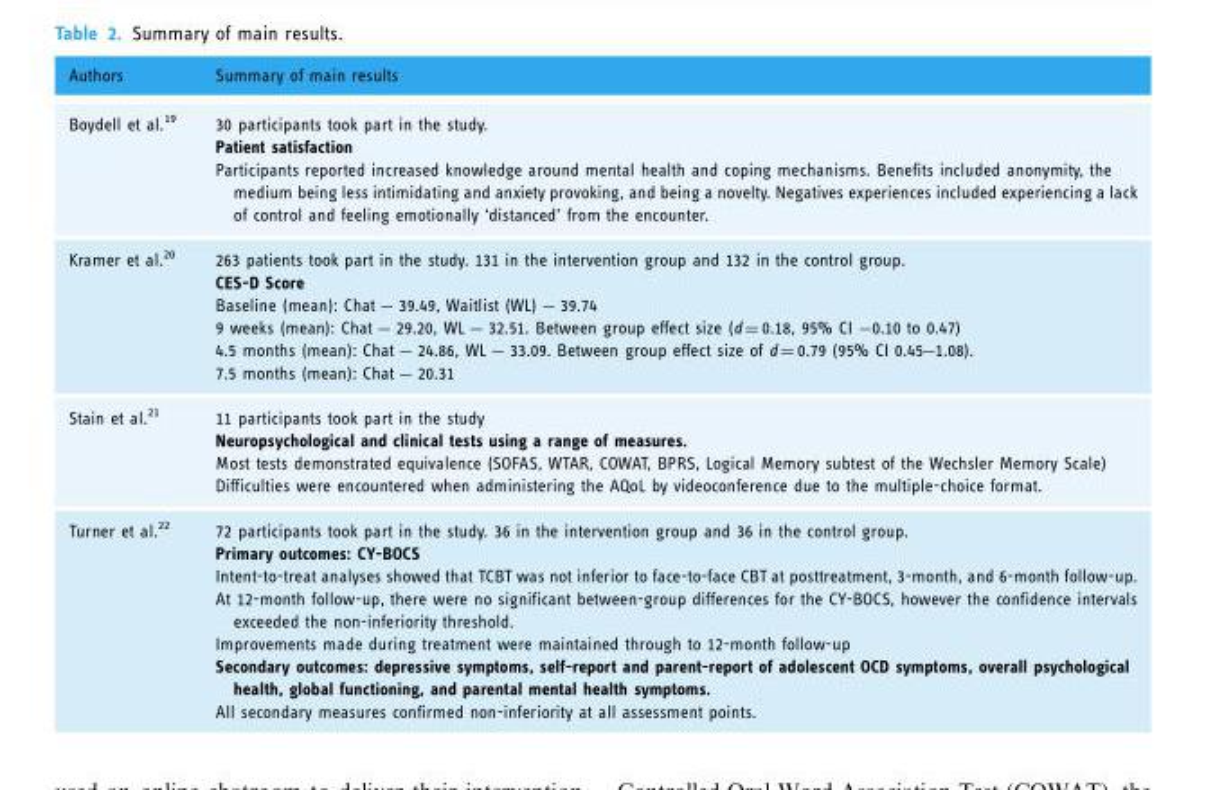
<table><thead><tr><td>Authors</td><td>Summary of main results</td></tr></thead><tbody><tr><td>Boydell et al.<sup>19</sup></td><td>30 participants took part in the study. Patient satisfaction Participants reported increased knowledge around mental health and coping mechanisms. Benefits included anonymity, the medium being less intimidating and anxiety provoking, and being a novelty. Negatives experiences included experiencing a lack of control and feeling emotionally ‘distanced’ from the encounter.</td></tr><tr><td>Kramer et al.<sup>20</sup></td><td>263 patients took part in the study. 131 in the intervention group and 132 in the control group. CES-D Score Baseline (mean): Chat – 39.49, Waitlist (WL) – 39.74 9 weeks (mean): Chat – 29.20, WL – 32.51. Between group effect size (d = 0.18, 95% CI −0.10 to 0.47) 4.5 months (mean): Chat – 24.86, WL – 33.09. Between group effect size of d = 0.79 (95% CI 0.45–1.08). 7.5 months (mean): Chat – 20.31</td></tr><tr><td>Stain et al.<sup>21</sup></td><td>11 participants took part in the study Neuropsychological and clinical tests using a range of measures. Most tests demonstrated equivalence (SOFAS, WTAR, COWAT, BPRS, Logical Memory subtest of the Wechsler Memory Scale) Difficulties were encountered when administering the AQoL by videoconference due to the multiple-choice format.</td></tr><tr><td>Turner et al.<sup>22</sup></td><td>72 participants took part in the study. 36 in the intervention group and 36 in the control group. Primary outcomes: CY-BOCS Intent-to-treat analyses showed that TCBT was not inferior to face-to-face CBT at posttreatment, 3-month, and 6-month follow-up. At 12-month follow-up, there were no significant between-group differences for the CY-BOCS, however the confidence intervals exceeded the non-inferiority threshold. Improvements made during treatment were maintained through to 12-month follow-up Secondary outcomes: depressive symptoms, self-report and parent-report of adolescent OCD symptoms, overall psychological health, global functioning, and parental mental health symptoms. All secondary measures confirmed non-inferiority at all assessment points.</td></tr></tbody></table>